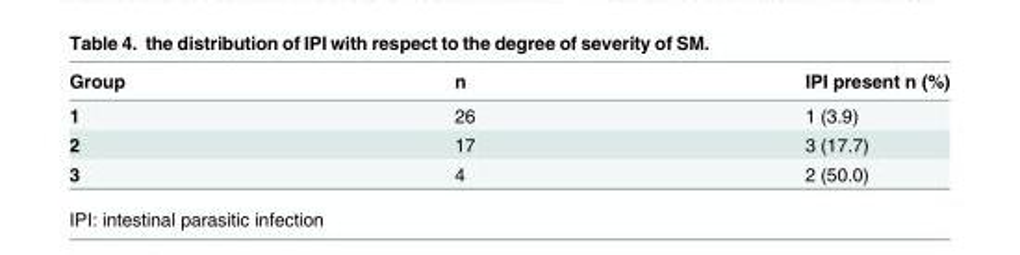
<table><thead><tr><td>Group</td><td>n</td><td>IPI present n (%)</td></tr></thead><tbody><tr><td>1</td><td>26</td><td>1 (3.9)</td></tr><tr><td>2</td><td>17</td><td>3 (17.7)</td></tr><tr><td>3</td><td>4</td><td>2 (50.0)</td></tr></tbody></table>